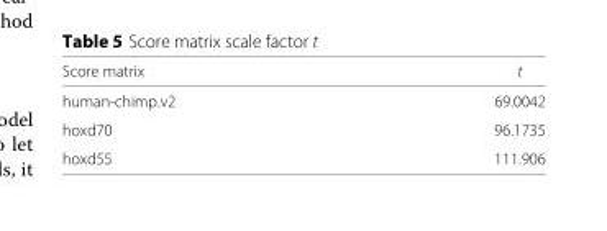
<table><thead><tr><td>Score matrix</td><td>t</td></tr></thead><tbody><tr><td>human-chimp.v2</td><td>69.0042</td></tr><tr><td>hoxd70</td><td>96.1735</td></tr><tr><td>hoxd55</td><td>111.906</td></tr></tbody></table>